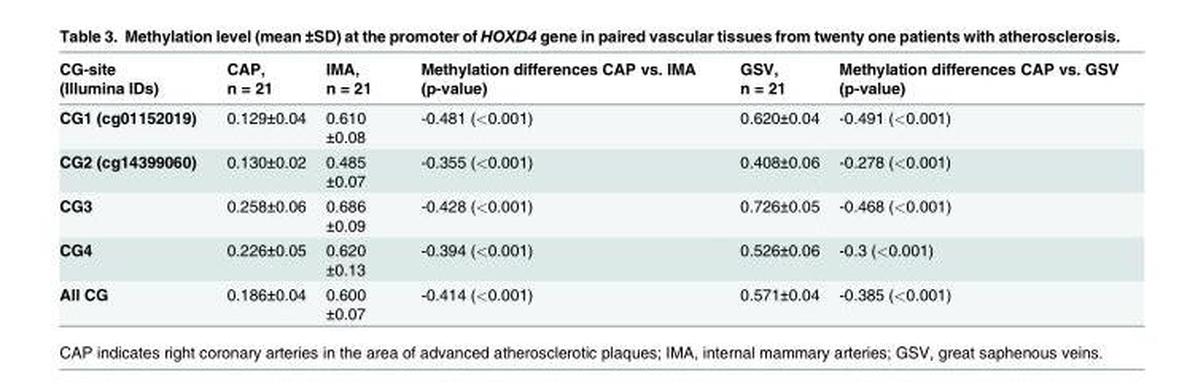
<table><thead><tr><td>CG-site (Illumina IDs)</td><td>CAP, n = 21</td><td>IMA, n = 21</td><td>Methylation differences CAP vs. IMA (p-value)</td><td>GSV, n = 21</td><td>Methylation differences CAP vs. GSV (p-value)</td></tr></thead><tbody><tr><td>CG1 (cg01152019)</td><td>0.129±0.04</td><td>0.610 ±0.08</td><td>-0.481 (&lt;0.001)</td><td>0.620±0.04</td><td>-0.491 (&lt;0.001)</td></tr><tr><td>CG2 (cg14399060)</td><td>0.130±0.02</td><td>0.485 ±0.07</td><td>-0.355 (&lt;0.001)</td><td>0.408±0.06</td><td>-0.278 (&lt;0.001)</td></tr><tr><td>CG3</td><td>0.258±0.06</td><td>0.686 ±0.09</td><td>-0.428 (&lt;0.001)</td><td>0.726±0.05</td><td>-0.468 (&lt;0.001)</td></tr><tr><td>CG4</td><td>0.226±0.05</td><td>0.620 ±0.13</td><td>-0.394 (&lt;0.001)</td><td>0.526±0.06</td><td>-0.3 (&lt;0.001)</td></tr><tr><td>All CG</td><td>0.186±0.04</td><td>0.600 ±0.07</td><td>-0.414 (&lt;0.001)</td><td>0.571±0.04</td><td>-0.385 (&lt;0.001)</td></tr></tbody></table>